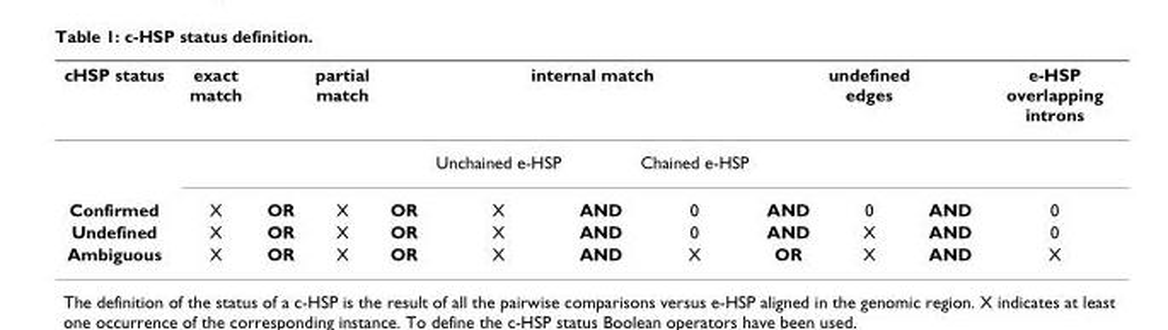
<table><thead><tr><td rowspan="2">cHSP status</td><td rowspan="2">exact match</td><td rowspan="2"></td><td rowspan="2">partial match</td><td rowspan="2"></td><td colspan="3">internal match</td><td rowspan="2"></td><td rowspan="2">undefined edges</td><td rowspan="2"></td><td rowspan="2">e-HSP overlapping introns</td></tr><tr><td>Unchained e-HSP</td><td></td><td>Chained e-HSP</td></tr></thead><tbody><tr><td>Confirmed</td><td>X</td><td>OR</td><td>X</td><td>OR</td><td>X</td><td>AND</td><td>0</td><td>AND</td><td>0</td><td>AND</td><td>0</td></tr><tr><td>Undefined</td><td>X</td><td>OR</td><td>X</td><td>OR</td><td>X</td><td>AND</td><td>0</td><td>AND</td><td>X</td><td>AND</td><td>0</td></tr><tr><td>Ambiguous</td><td>X</td><td>OR</td><td>X</td><td>OR</td><td>X</td><td>AND</td><td>X</td><td>OR</td><td>X</td><td>AND</td><td>X</td></tr></tbody></table>